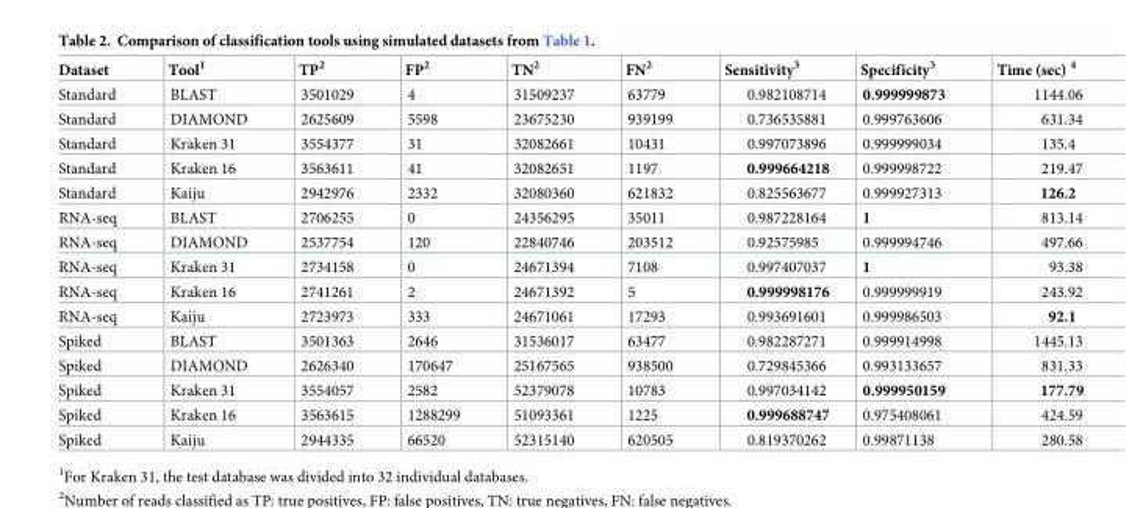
<table><thead><tr><td>Dataset</td><td>Tool<sup>1</sup></td><td>TP<sup>2</sup></td><td>FP<sup>2</sup></td><td>TN<sup>2</sup></td><td>FN<sup>2</sup></td><td>Sensitivity<sup>3</sup></td><td>Specificity<sup>3</sup></td><td>Time (sec) <sup>4</sup></td></tr></thead><tbody><tr><td>Standard</td><td>BLAST</td><td>3501029</td><td>4</td><td>31509237</td><td>63779</td><td>0.982108714</td><td>0.999999873</td><td>1144.06</td></tr><tr><td>Standard</td><td>DIAMOND</td><td>2625609</td><td>5598</td><td>23675230</td><td>939199</td><td>0.736535881</td><td>0.999763606</td><td>631.34</td></tr><tr><td>Standard</td><td>Kraken 31</td><td>3554377</td><td>31</td><td>32082661</td><td>10431</td><td>0.997073896</td><td>0.999999034</td><td>135.4</td></tr><tr><td>Standard</td><td>Kraken 16</td><td>3563611</td><td>41</td><td>32082651</td><td>1197</td><td>0.999664218</td><td>0.999998722</td><td>219.47</td></tr><tr><td>Standard</td><td>Kaiju</td><td>2942976</td><td>2332</td><td>32080360</td><td>621832</td><td>0.825563677</td><td>0.999927313</td><td>126.2</td></tr><tr><td>RNA-seq</td><td>BLAST</td><td>2706255</td><td>0</td><td>24356295</td><td>35011</td><td>0.987228164</td><td>1</td><td>813.14</td></tr><tr><td>RNA-seq</td><td>DIAMOND</td><td>2537754</td><td>120</td><td>22840746</td><td>203512</td><td>0.92575985</td><td>0.999994746</td><td>497.66</td></tr><tr><td>RNA-seq</td><td>Kraken 31</td><td>2734158</td><td>0</td><td>24671394</td><td>7108</td><td>0.997407037</td><td>1</td><td>93.38</td></tr><tr><td>RNA-seq</td><td>Kraken 16</td><td>2741261</td><td>2</td><td>24671392</td><td>5</td><td>0.999998176</td><td>0.999999919</td><td>243.92</td></tr><tr><td>RNA-seq</td><td>Kaiju</td><td>2723973</td><td>333</td><td>24671061</td><td>17293</td><td>0.993691601</td><td>0.999986503</td><td>92.1</td></tr><tr><td>Spiked</td><td>BLAST</td><td>3501363</td><td>2646</td><td>31536017</td><td>63477</td><td>0.982287271</td><td>0.999914998</td><td>1445.13</td></tr><tr><td>Spiked</td><td>DIAMOND</td><td>2626340</td><td>170647</td><td>25167565</td><td>938500</td><td>0.729845366</td><td>0.993133657</td><td>831.33</td></tr><tr><td>Spiked</td><td>Kraken 31</td><td>3554057</td><td>2582</td><td>52379078</td><td>10783</td><td>0.997034142</td><td>0.999950159</td><td>177.79</td></tr><tr><td>Spiked</td><td>Kraken 16</td><td>3563615</td><td>1288299</td><td>51093361</td><td>1225</td><td>0.999688747</td><td>0.975408061</td><td>424.59</td></tr><tr><td>Spiked</td><td>Kaiju</td><td>2944335</td><td>66520</td><td>52315140</td><td>620505</td><td>0.819370262</td><td>0.99871138</td><td>280.58</td></tr></tbody></table>